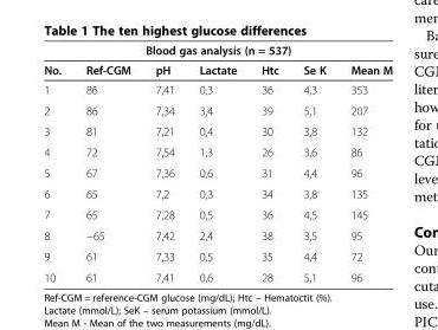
<table><thead><tr><td colspan="7">Blood gas analysis (n = 537)</td></tr><tr><td>No.</td><td>Ref-CGM</td><td>pH</td><td>Lactate</td><td>Htc</td><td>Se K</td><td>Mean M</td></tr></thead><tbody><tr><td>1</td><td>86</td><td>7,41</td><td>0,3</td><td>36</td><td>4,3</td><td>353</td></tr><tr><td>2</td><td>86</td><td>7,34</td><td>3,4</td><td>39</td><td>5,1</td><td>207</td></tr><tr><td>3</td><td>81</td><td>7,21</td><td>0,4</td><td>30</td><td>3,8</td><td>132</td></tr><tr><td>4</td><td>72</td><td>7,54</td><td>1,3</td><td>26</td><td>3,6</td><td>86</td></tr><tr><td>5</td><td>67</td><td>7,36</td><td>0,6</td><td>31</td><td>4,4</td><td>96</td></tr><tr><td>6</td><td>65</td><td>7,2</td><td>0,3</td><td>34</td><td>3,8</td><td>135</td></tr><tr><td>7</td><td>65</td><td>7,28</td><td>0,5</td><td>36</td><td>4,5</td><td>145</td></tr><tr><td>8</td><td>−65</td><td>7,42</td><td>2,4</td><td>38</td><td>3,5</td><td>95</td></tr><tr><td>9</td><td>61</td><td>7,33</td><td>0,5</td><td>35</td><td>4,4</td><td>72</td></tr><tr><td>10</td><td>61</td><td>7,41</td><td>0,6</td><td>28</td><td>5,1</td><td>96</td></tr></tbody></table>